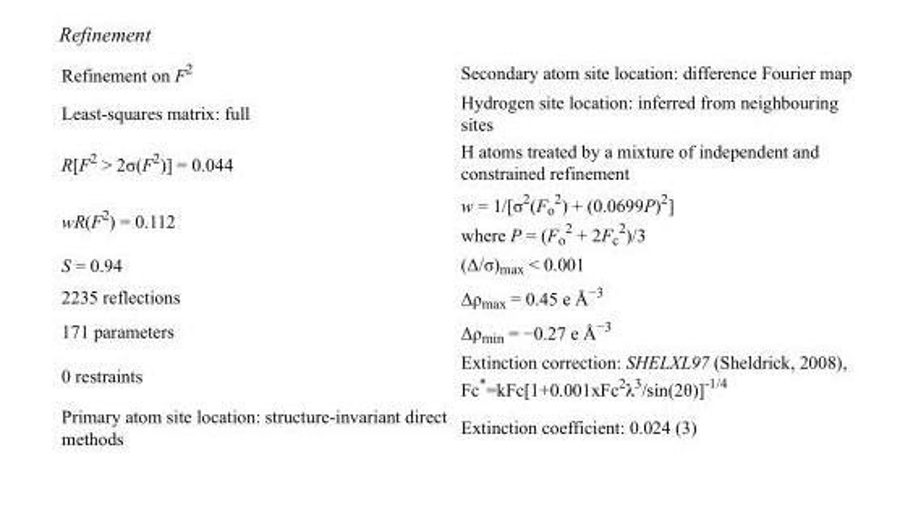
<table><tbody><tr><td>Refinement on F<sup>2</sup></td><td>Secondary atom site location: difference Fourier map</td></tr><tr><td>Least-squares matrix: full</td><td>Hydrogen site location: inferred from neighbouring sites</td></tr><tr><td>R[F<sup>2</sup> &gt; 2σ(F<sup>2</sup>)] = 0.044</td><td>H atoms treated by a mixture of independent and constrained refinement</td></tr><tr><td>wR(F<sup>2</sup>) = 0.112</td><td>w = 1/[σ<sup>2</sup>(F<sub>o</sub> <sup>2</sup>) + (0.0699P)<sup>2</sup>] where P = (F<sub>o</sub> <sup>2</sup> + 2F<sub>c</sub> <sup>2</sup>)/3</td></tr><tr><td>S = 0.94</td><td>(Δ/σ)<sub>max</sub> &lt; 0.001</td></tr><tr><td>2235 reflections</td><td>Δρ<sub>max</sub> = 0.45 e Å<sup>−3</sup></td></tr><tr><td>171 parameters</td><td>Δρ<sub>min</sub> = −0.27 e Å<sup>−3</sup></td></tr><tr><td>0 restraints</td><td>Extinction correction: SHELXL97 (Sheldrick, 2008), Fc*=kFc[1+0.001xFc<sup>2</sup>λ<sup>3</sup>/sin(2θ)]<sup>-1/4</sup></td></tr><tr><td>Primary atom site location: structure-invariant direct methods</td><td>Extinction coefficient: 0.024 (3)</td></tr></tbody></table>